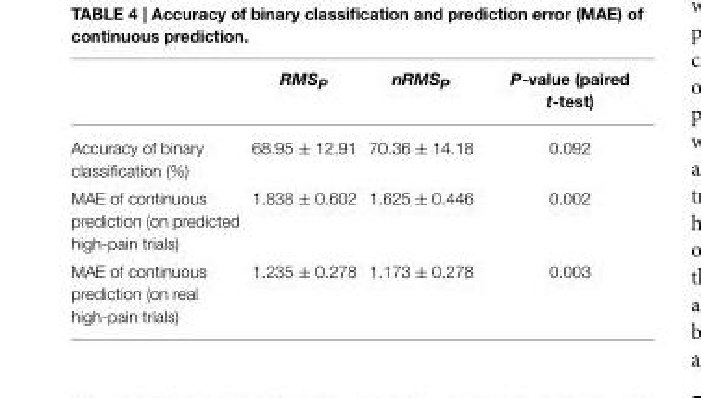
<table><thead><tr><td></td><td>RMSP</td><td>nRMSP</td><td>P-value (paired t-test)</td></tr></thead><tbody><tr><td>Accuracy of binary classification (%)</td><td>68.95 ± 12.91</td><td>70.36 ± 14.18</td><td>0.092</td></tr><tr><td>MAE of continuous prediction (on predicted high-pain trials)</td><td>1.838 ± 0.602</td><td>1.625 ± 0.446</td><td>0.002</td></tr><tr><td>MAE of continuous prediction (on real high-pain trials)</td><td>1.235 ± 0.278</td><td>1.173 ± 0.278</td><td>0.003</td></tr></tbody></table>